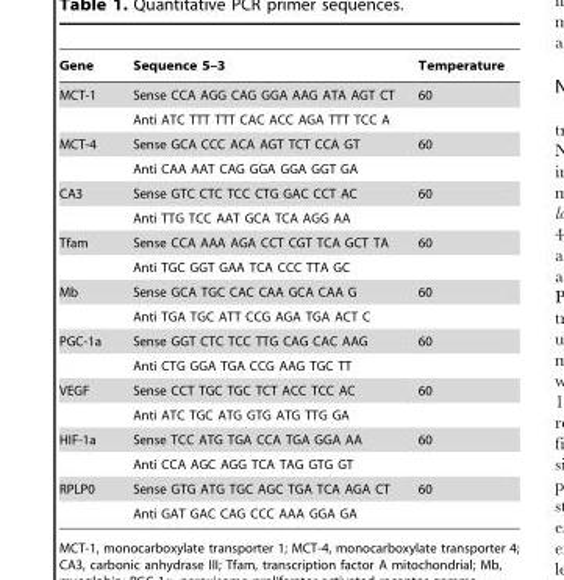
<table><thead><tr><td>Gene</td><td>Sequence 5–3</td><td>Temperature</td></tr></thead><tbody><tr><td rowspan="2">MCT-1</td><td>Sense CCA AGG CAG GGA AAG ATA AGT CT</td><td>60</td></tr><tr><td>Anti ATC TTT TTT CAC ACC AGA TTT TCC A</td><td></td></tr><tr><td rowspan="2">MCT-4</td><td>Sense GCA CCC ACA AGT TCT CCA GT</td><td>60</td></tr><tr><td>Anti CAA AAT CAG GGA GGA GGT GA</td><td></td></tr><tr><td rowspan="2">CA3</td><td>Sense GTC CTC TCC CTG GAC CCT AC</td><td>60</td></tr><tr><td>Anti TTG TCC AAT GCA TCA AGG AA</td><td></td></tr><tr><td rowspan="2">Tfam</td><td>Sense CCA AAA AGA CCT CGT TCA GCT TA</td><td>60</td></tr><tr><td>Anti TGC GGT GAA TCA CCC TTA GC</td><td></td></tr><tr><td rowspan="2">Mb</td><td>Sense GCA TGC CAC CAA GCA CAA G</td><td>60</td></tr><tr><td>Anti TGA TGC ATT CCG AGA TGA ACT C</td><td></td></tr><tr><td rowspan="2">PGC-1a</td><td>Sense GGT CTC TCC TTG CAG CAC AAG</td><td>60</td></tr><tr><td>Anti CTG GGA TGA CCG AAG TGC TT</td><td></td></tr><tr><td rowspan="2">VEGF</td><td>Sense CCT TGC TGC TCT ACC TCC AC</td><td>60</td></tr><tr><td>Anti ATC TGC ATG GTG ATG TTG GA</td><td></td></tr><tr><td rowspan="2">HIF-1a</td><td>Sense TCC ATG TGA CCA TGA GGA AA</td><td>60</td></tr><tr><td>Anti CCA AGC AGG TCA TAG GTG GT</td><td></td></tr><tr><td rowspan="2">RPLP0</td><td>Sense GTG ATG TGC AGC TGA TCA AGA CT</td><td>60</td></tr><tr><td>Anti GAT GAC CAG CCC AAA GGA GA</td><td></td></tr></tbody></table>